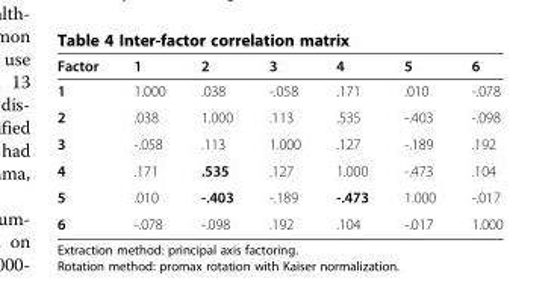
<table><thead><tr><td>Factor</td><td>1</td><td>2</td><td>3</td><td>4</td><td>5</td><td>6</td></tr></thead><tbody><tr><td>1</td><td>1.000</td><td>.038</td><td>-.058</td><td>.171</td><td>.010</td><td>-.078</td></tr><tr><td>2</td><td>.038</td><td>1.000</td><td>.113</td><td>.535</td><td>-.403</td><td>-.098</td></tr><tr><td>3</td><td>-.058</td><td>.113</td><td>1.000</td><td>.127</td><td>-.189</td><td>.192</td></tr><tr><td>4</td><td>.171</td><td>.535</td><td>.127</td><td>1.000</td><td>-.473</td><td>.104</td></tr><tr><td>5</td><td>.010</td><td>-.403</td><td>-.189</td><td>-.473</td><td>1.000</td><td>-.017</td></tr><tr><td>6</td><td>-.078</td><td>-.098</td><td>.192</td><td>.104</td><td>-.017</td><td>1.000</td></tr></tbody></table>